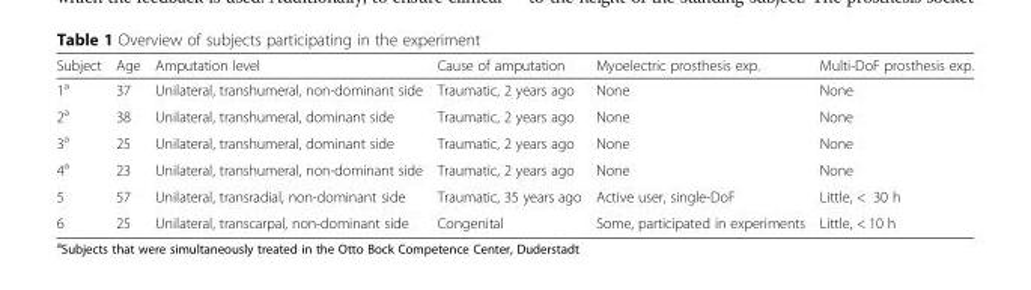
<table><thead><tr><td>Subject</td><td>Age</td><td>Amputation level</td><td>Cause of amputation</td><td>Myoelectric prosthesis exp.</td><td>Multi-DoF prosthesis exp.</td></tr></thead><tbody><tr><td>1<sup>a</sup></td><td>37</td><td>Unilateral, transhumeral, non-dominant side</td><td>Traumatic, 2 years ago</td><td>None</td><td>None</td></tr><tr><td>2<sup>a</sup></td><td>38</td><td>Unilateral, transhumeral, dominant side</td><td>Traumatic, 2 years ago</td><td>None</td><td>None</td></tr><tr><td>3<sup>a</sup></td><td>25</td><td>Unilateral, transhumeral, dominant side</td><td>Traumatic, 2 years ago</td><td>None</td><td>None</td></tr><tr><td>4<sup>a</sup></td><td>23</td><td>Unilateral, transhumeral, non-dominant side</td><td>Traumatic, 2 years ago</td><td>None</td><td>None</td></tr><tr><td>5</td><td>57</td><td>Unilateral, transradial, non-dominant side</td><td>Traumatic, 35 years ago</td><td>Active user, single-DoF</td><td>Little, &lt; 30 h</td></tr><tr><td>6</td><td>25</td><td>Unilateral, transcarpal, non-dominant side</td><td>Congenital</td><td>Some, participated in experiments</td><td>Little, &lt; 10 h</td></tr></tbody></table>